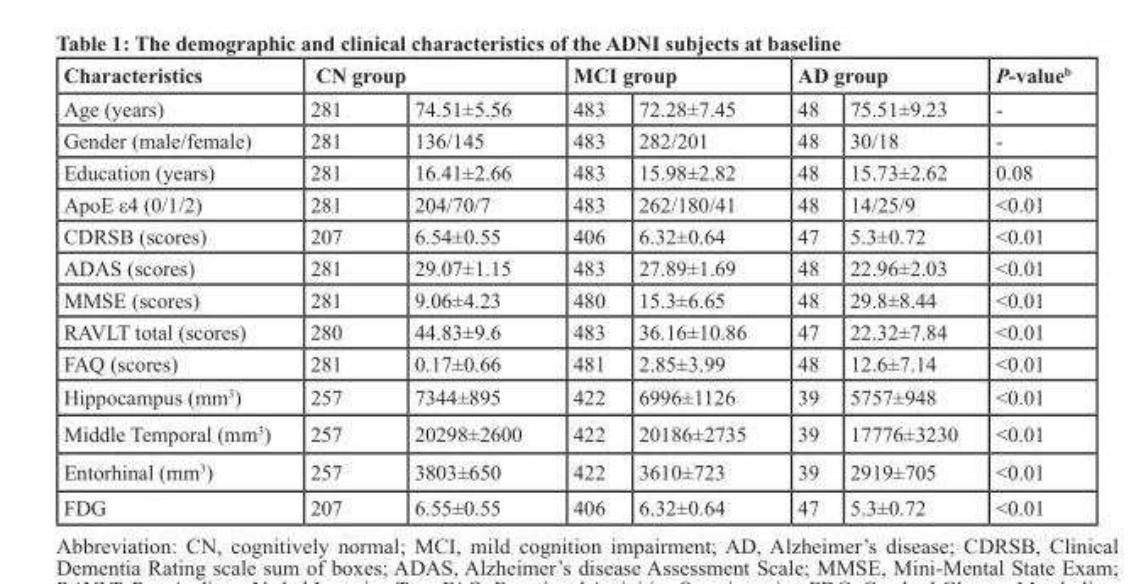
<table><thead><tr><td rowspan="2">Characteristics Age (years)</td><td colspan="2">CN group</td><td colspan="2">MCI group</td><td colspan="2">AD group</td><td rowspan="2">P-value<sup>b</sup> -</td></tr><tr><td>281</td><td>74.51±5.56</td><td>483</td><td>72.28±7.45</td><td>48</td><td>75.51±9.23</td></tr></thead><tbody><tr><td>Gender (male/female)</td><td>281</td><td>136/145</td><td>483</td><td>282/201</td><td>48</td><td>30/18</td><td>-</td></tr><tr><td>Education (years)</td><td>281</td><td>16.41±2.66</td><td>483</td><td>15.98±2.82</td><td>48</td><td>15.73±2.62</td><td>0.08</td></tr><tr><td>ApoE ε4 (0/1/2)</td><td>281</td><td>204/70/7</td><td>483</td><td>262/180/41</td><td>48</td><td>14/25/9</td><td>&lt;0.01</td></tr><tr><td>CDRSB (scores)</td><td>207</td><td>6.54±0.55</td><td>406</td><td>6.32±0.64</td><td>47</td><td>5.3±0.72</td><td>&lt;0.01</td></tr><tr><td>ADAS (scores)</td><td>281</td><td>29.07±1.15</td><td>483</td><td>27.89±1.69</td><td>48</td><td>22.96±2.03</td><td>&lt;0.01</td></tr><tr><td>MMSE (scores)</td><td>281</td><td>9.06±4.23</td><td>480</td><td>15.3±6.65</td><td>48</td><td>29.8±8.44</td><td>&lt;0.01</td></tr><tr><td>RAVLT total (scores)</td><td>280</td><td>44.83±9.6</td><td>483</td><td>36.16±10.86</td><td>47</td><td>22.32±7.84</td><td>&lt;0.01</td></tr><tr><td>FAQ (scores)</td><td>281</td><td>0.17±0.66</td><td>481</td><td>2.85±3.99</td><td>48</td><td>12.6±7.14</td><td>&lt;0.01</td></tr><tr><td>Hippocampus (mm<sup>3</sup>)</td><td>257</td><td>7344±895</td><td>422</td><td>6996±1126</td><td>39</td><td>5757±948</td><td>&lt;0.01</td></tr><tr><td>Middle Temporal (mm<sup>3</sup>)</td><td>257</td><td>20298±2600</td><td>422</td><td>20186±2735</td><td>39</td><td>17776±3230</td><td>&lt;0.01</td></tr><tr><td>Entorhinal (mm<sup>3</sup>)</td><td>257</td><td>3803±650</td><td>422</td><td>3610±723</td><td>39</td><td>2919±705</td><td>&lt;0.01</td></tr><tr><td>FDG</td><td>207</td><td>6.55±0.55</td><td>406</td><td>6.32±0.64</td><td>47</td><td>5.3±0.72</td><td>&lt;0.01</td></tr></tbody></table>